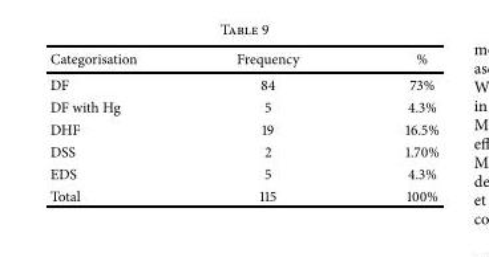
<table><thead><tr><td>Categorisation</td><td>Frequency</td><td>%</td></tr></thead><tbody><tr><td>DF</td><td>84</td><td>73%</td></tr><tr><td>DF with Hg</td><td>5</td><td>4.3%</td></tr><tr><td>DHF</td><td>19</td><td>16.5%</td></tr><tr><td>DSS</td><td>2</td><td>1.70%</td></tr><tr><td>EDS</td><td>5</td><td>4.3%</td></tr><tr><td>Total</td><td>115</td><td>100%</td></tr></tbody></table>